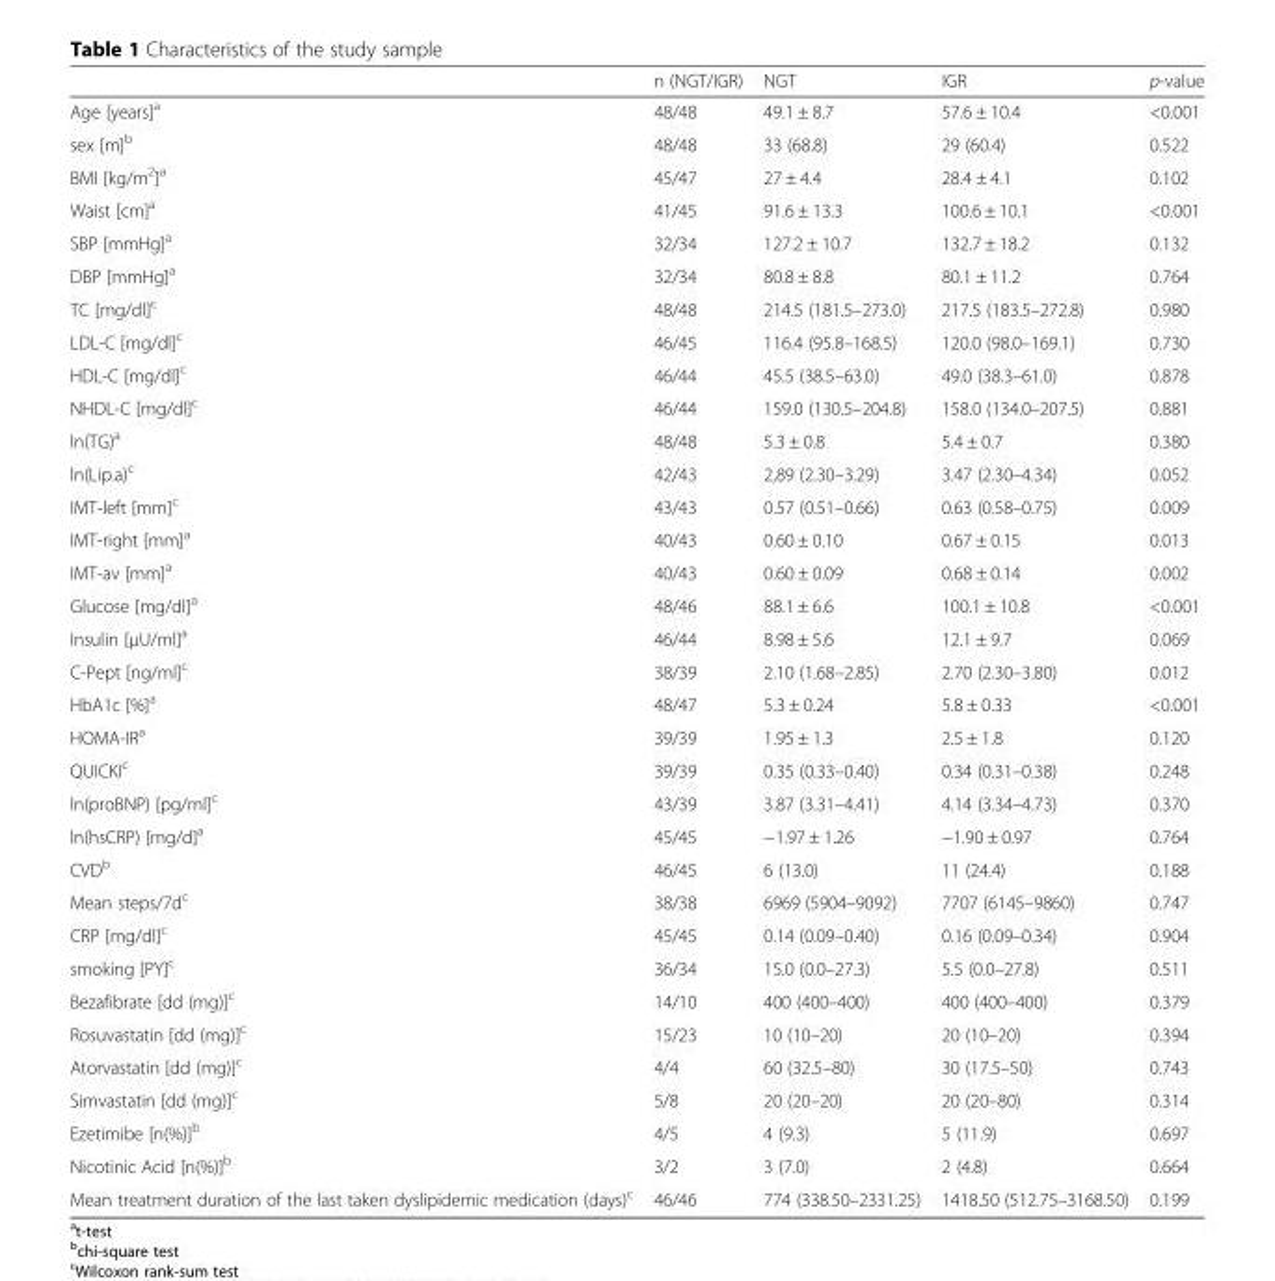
<table><thead><tr><td></td><td>n (NGT/IGR)</td><td>NGT</td><td>IGR</td><td>p-value</td></tr></thead><tbody><tr><td>Age [years]<sup>a</sup></td><td>48/48</td><td>49.1 ± 8.7</td><td>57.6 ± 10.4</td><td>&lt;0.001</td></tr><tr><td>sex [m]<sup>b</sup></td><td>48/48</td><td>33 (68.8)</td><td>29 (60.4)</td><td>0.522</td></tr><tr><td>BMI [kg/m<sup>2</sup>]<sup>a</sup></td><td>45/47</td><td>27 ± 4.4</td><td>28.4 ± 4.1</td><td>0.102</td></tr><tr><td>Waist [cm]<sup>a</sup></td><td>41/45</td><td>91.6 ± 13.3</td><td>100.6 ± 10.1</td><td>&lt;0.001</td></tr><tr><td>SBP [mmHg]<sup>a</sup></td><td>32/34</td><td>127.2 ± 10.7</td><td>132.7 ± 18.2</td><td>0.132</td></tr><tr><td>DBP [mmHg]<sup>a</sup></td><td>32/34</td><td>80.8 ± 8.8</td><td>80.1 ± 11.2</td><td>0.764</td></tr><tr><td>TC [mg/dl]<sup>c</sup></td><td>48/48</td><td>214.5 (181.5–273.0)</td><td>217.5 (183.5–272.8)</td><td>0.980</td></tr><tr><td>LDL-C [mg/dl]<sup>c</sup></td><td>46/45</td><td>116.4 (95.8–168.5)</td><td>120.0 (98.0–169.1)</td><td>0.730</td></tr><tr><td>HDL-C [mg/dl]<sup>c</sup></td><td>46/44</td><td>45.5 (38.5–63.0)</td><td>49.0 (38.3–61.0)</td><td>0.878</td></tr><tr><td>NHDL-C [mg/dl]<sup>c</sup></td><td>46/44</td><td>159.0 (130.5–204.8)</td><td>158.0 (134.0–207.5)</td><td>0.881</td></tr><tr><td>ln(TG)<sup>a</sup></td><td>48/48</td><td>5.3 ± 0.8</td><td>5.4 ± 0.7</td><td>0.380</td></tr><tr><td>ln(Lip.a)<sup>c</sup></td><td>42/43</td><td>2,89 (2.30–3.29)</td><td>3.47 (2.30–4.34)</td><td>0.052</td></tr><tr><td>IMT-left [mm]<sup>c</sup></td><td>43/43</td><td>0.57 (0.51–0.66)</td><td>0.63 (0.58–0.75)</td><td>0.009</td></tr><tr><td>IMT-right [mm]<sup>a</sup></td><td>40/43</td><td>0.60 ± 0.10</td><td>0.67 ± 0.15</td><td>0.013</td></tr><tr><td>IMT-av [mm]<sup>a</sup></td><td>40/43</td><td>0.60 ± 0.09</td><td>0.68 ± 0.14</td><td>0.002</td></tr><tr><td>Glucose [mg/dl]<sup>a</sup></td><td>48/46</td><td>88.1 ± 6.6</td><td>100.1 ± 10.8</td><td>&lt;0.001</td></tr><tr><td>Insulin [μU/ml]<sup>a</sup></td><td>46/44</td><td>8.98 ± 5.6</td><td>12.1 ± 9.7</td><td>0.069</td></tr><tr><td>C-Pept [ng/ml]<sup>c</sup></td><td>38/39</td><td>2.10 (1.68–2.85)</td><td>2.70 (2.30–3.80)</td><td>0.012</td></tr><tr><td>HbA1c [%]<sup>a</sup></td><td>48/47</td><td>5.3 ± 0.24</td><td>5.8 ± 0.33</td><td>&lt;0.001</td></tr><tr><td>HOMA-IR<sup>a</sup></td><td>39/39</td><td>1.95 ± 1.3</td><td>2.5 ± 1.8</td><td>0.120</td></tr><tr><td>QUICKI<sup>c</sup></td><td>39/39</td><td>0.35 (0.33–0.40)</td><td>0.34 (0.31–0.38)</td><td>0.248</td></tr><tr><td>ln(proBNP) [pg/ml]<sup>c</sup></td><td>43/39</td><td>3.87 (3.31–4.41)</td><td>4.14 (3.34–4.73)</td><td>0.370</td></tr><tr><td>ln(hsCRP) [mg/d]<sup>a</sup></td><td>45/45</td><td>−1.97 ± 1.26</td><td>−1.90 ± 0.97</td><td>0.764</td></tr><tr><td>CVD<sup>b</sup></td><td>46/45</td><td>6 (13.0)</td><td>11 (24.4)</td><td>0.188</td></tr><tr><td>Mean steps/7d<sup>c</sup></td><td>38/38</td><td>6969 (5904–9092)</td><td>7707 (6145–9860)</td><td>0.747</td></tr><tr><td>CRP [mg/dl]<sup>c</sup></td><td>45/45</td><td>0.14 (0.09–0.40)</td><td>0.16 (0.09–0.34)</td><td>0.904</td></tr><tr><td>smoking [PY]<sup>c</sup></td><td>36/34</td><td>15.0 (0.0–27.3)</td><td>5.5 (0.0–27.8)</td><td>0.511</td></tr><tr><td>Bezafibrate [dd (mg)]<sup>c</sup></td><td>14/10</td><td>400 (400–400)</td><td>400 (400–400)</td><td>0.379</td></tr><tr><td>Rosuvastatin [dd (mg)]<sup>c</sup></td><td>15/23</td><td>10 (10–20)</td><td>20 (10–20)</td><td>0.394</td></tr><tr><td>Atorvastatin [dd (mg)]<sup>c</sup></td><td>4/4</td><td>60 (32.5–80)</td><td>30 (17.5–50)</td><td>0.743</td></tr><tr><td>Simvastatin [dd (mg)]<sup>c</sup></td><td>5/8</td><td>20 (20–20)</td><td>20 (20–80)</td><td>0.314</td></tr><tr><td>Ezetimibe [n(%)]<sup>b</sup></td><td>4/5</td><td>4 (9.3)</td><td>5 (11.9)</td><td>0.697</td></tr><tr><td>Nicotinic Acid [n(%)]<sup>b</sup></td><td>3/2</td><td>3 (7.0)</td><td>2 (4.8)</td><td>0.664</td></tr><tr><td>Mean treatment duration of the last taken dyslipidemic medication (days)<sup>c</sup></td><td>46/46</td><td>774 (338.50–2331.25)</td><td>1418.50 (512.75–3168.50)</td><td>0.199</td></tr></tbody></table>